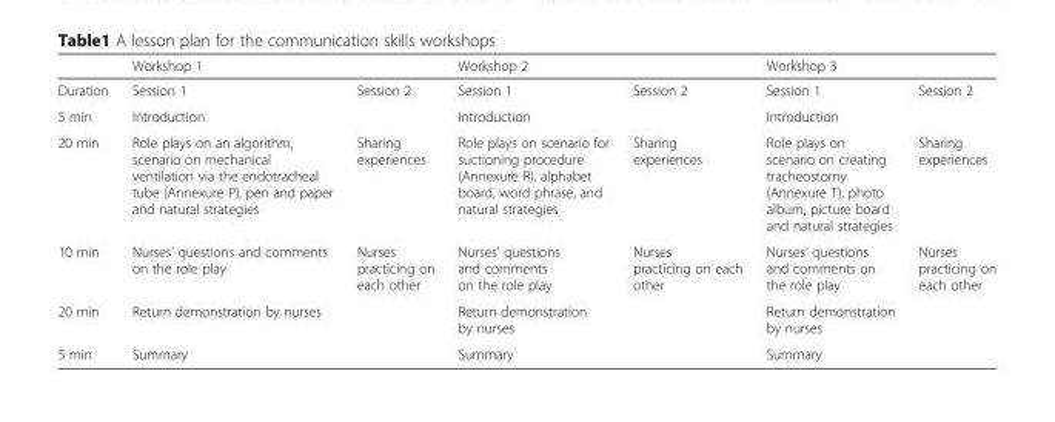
<table><thead><tr><td rowspan="2">Duration</td><td colspan="2">Workshop 1</td><td colspan="2">Workshop 2</td><td colspan="2">Workshop 3</td></tr><tr><td>Session 1</td><td>Session 2</td><td>Session 1</td><td>Session 2</td><td>Session 1</td><td>Session 2</td></tr></thead><tbody><tr><td>5 min</td><td colspan="2">Introduction</td><td colspan="2">Introduction</td><td colspan="2">Introduction</td></tr><tr><td>20 min</td><td>Role plays on an algorithm, scenario on mechanical ventilation via the endotracheal tube (Annexure P), pen and paper and natural strategies</td><td>Sharing experiences</td><td>Role plays on scenario for suctioning procedure (Annexure R), alphabet board, word phrase, and natural strategies</td><td>Sharing experiences</td><td>Role plays on scenario on creating tracheostomy (Annexure T), photo album, picture board and natural strategies</td><td>Sharing experiences</td></tr><tr><td>10 min</td><td>Nurses’ questions and comments on the role play</td><td rowspan="2">Nurses practicing on each other</td><td>Nurses’ questions and comments on the role play</td><td rowspan="2">Nurses practicing on each other</td><td>Nurses’ questions and comments on the role play</td><td rowspan="2">Nurses practicing on each other</td></tr><tr><td>20 min</td><td>Return demonstration by nurses</td><td>Return demonstration by nurses</td><td>Return demonstration by nurses</td></tr><tr><td>5 min</td><td colspan="2">Summary</td><td colspan="2">Summary</td><td colspan="2">Summary</td></tr></tbody></table>